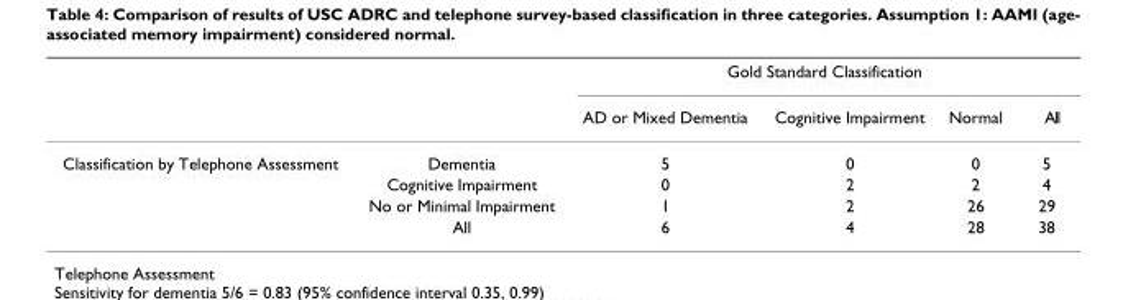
<table><thead><tr><td rowspan="2"></td><td rowspan="2"></td><td colspan="4">Gold Standard Classification</td></tr><tr><td>AD or Mixed Dementia</td><td>Cognitive Impairment</td><td>Normal</td><td>All</td></tr></thead><tbody><tr><td rowspan="4">Classification by Telephone Assessment</td><td>Dementia</td><td>5</td><td>0</td><td>0</td><td>5</td></tr><tr><td>Cognitive Impairment</td><td>0</td><td>2</td><td>2</td><td>4</td></tr><tr><td>No or Minimal Impairment</td><td>1</td><td>2</td><td>26</td><td>29</td></tr><tr><td>All</td><td>6</td><td>4</td><td>28</td><td>38</td></tr></tbody></table>